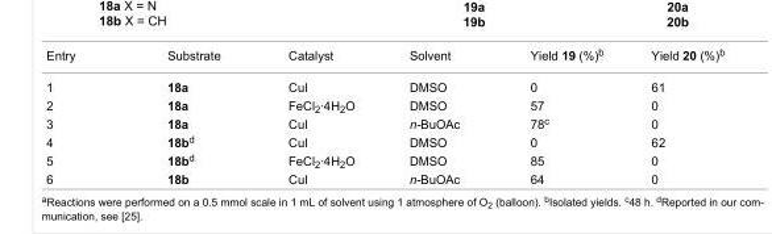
<table><tbody><tr><td>Entry</td><td>Substrate</td><td>Catalyst</td><td>Solvent</td><td>Yield 19 (%)<sup>b</sup></td><td>Yield 20 (%)<sup>b</sup></td></tr><tr><td>1</td><td>18a</td><td>CuI</td><td>DMSO</td><td>0</td><td>61</td></tr><tr><td>2</td><td>18a</td><td>FeCl<sub>2</sub>·4H<sub>2</sub>O</td><td>DMSO</td><td>57</td><td>0</td></tr><tr><td>3</td><td>18a</td><td>CuI</td><td>n-BuOAc</td><td>78<sup>c</sup></td><td>0</td></tr><tr><td>4</td><td>18b<sup>d</sup></td><td>CuI</td><td>DMSO</td><td>0</td><td>62</td></tr><tr><td>5</td><td>18b<sup>d</sup></td><td>FeCl<sub>2</sub>·4H<sub>2</sub>O</td><td>DMSO</td><td>85</td><td>0</td></tr><tr><td>6</td><td>18b</td><td>CuI</td><td>n-BuOAc</td><td>64</td><td>0</td></tr></tbody></table>